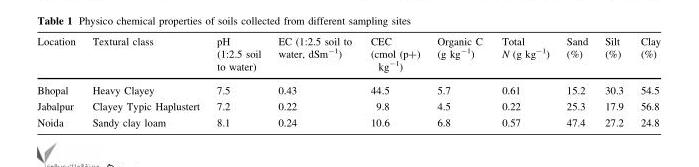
<table><thead><tr><td>Location</td><td>Textural class</td><td>pH (1:2.5 soil to water)</td><td>EC (1:2.5 soil to water, dSm<sup>-1</sup>)</td><td>CEC (cmol (p+) kg<sup>-1</sup>)</td><td>Organic C (g kg<sup>-1</sup>)</td><td>Total N (g kg<sup>-1</sup>)</td><td>Sand (%)</td><td>Silt (%)</td><td>Clay (%)</td></tr></thead><tbody><tr><td>Bhopal</td><td>Heavy Clayey</td><td>7.5</td><td>0.43</td><td>44.5</td><td>5.7</td><td>0.61</td><td>15.2</td><td>30.3</td><td>54.5</td></tr><tr><td>Jabalpur</td><td>Clayey Typic Haplustert</td><td>7.2</td><td>0.22</td><td>9.8</td><td>4.5</td><td>0.22</td><td>25.3</td><td>17.9</td><td>56.8</td></tr><tr><td>Noida</td><td>Sandy clay loam</td><td>8.1</td><td>0.24</td><td>10.6</td><td>6.8</td><td>0.57</td><td>47.4</td><td>27.2</td><td>24.8</td></tr></tbody></table>